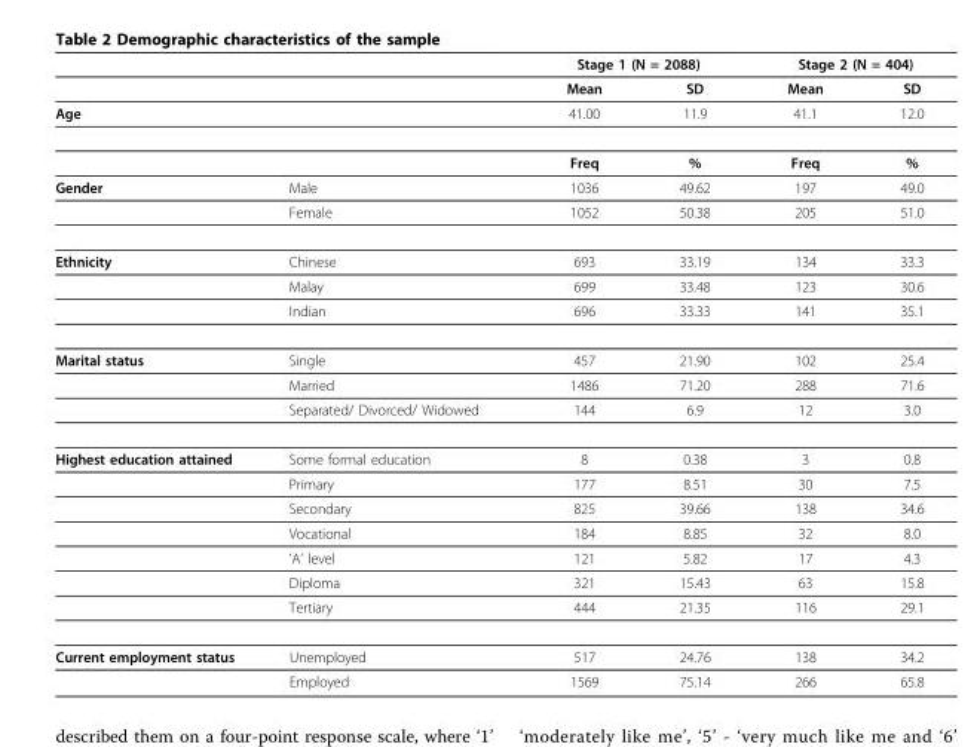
<table><thead><tr><td rowspan="2"></td><td rowspan="2"></td><td colspan="2">Stage 1 (N = 2088)</td><td colspan="2">Stage 2 (N = 404)</td></tr><tr><td>Mean</td><td>SD</td><td>Mean</td><td>SD</td></tr></thead><tbody><tr><td rowspan="2">Age</td><td></td><td>41.00</td><td>11.9</td><td>41.1</td><td>12.0</td></tr><tr><td></td><td>Freq</td><td>%</td><td>Freq</td><td>%</td></tr><tr><td rowspan="2">Gender</td><td>Male</td><td>1036</td><td>49.62</td><td>197</td><td>49.0</td></tr><tr><td>Female</td><td>1052</td><td>50.38</td><td>205</td><td>51.0</td></tr><tr><td rowspan="3">Ethnicity</td><td>Chinese</td><td>693</td><td>33.19</td><td>134</td><td>33.3</td></tr><tr><td>Malay</td><td>699</td><td>33.48</td><td>123</td><td>30.6</td></tr><tr><td>Indian</td><td>696</td><td>33.33</td><td>141</td><td>35.1</td></tr><tr><td rowspan="3">Marital status</td><td>Single</td><td>457</td><td>21.90</td><td>102</td><td>25.4</td></tr><tr><td>Married</td><td>1486</td><td>71.20</td><td>288</td><td>71.6</td></tr><tr><td>Separated/ Divorced/ Widowed</td><td>144</td><td>6.9</td><td>12</td><td>3.0</td></tr><tr><td rowspan="7">Highest education attained</td><td>Some formal education</td><td>8</td><td>0.38</td><td>3</td><td>0.8</td></tr><tr><td>Primary</td><td>177</td><td>8.51</td><td>30</td><td>7.5</td></tr><tr><td>Secondary</td><td>825</td><td>39.66</td><td>138</td><td>34.6</td></tr><tr><td>Vocational</td><td>184</td><td>8.85</td><td>32</td><td>8.0</td></tr><tr><td>’A’ level</td><td>121</td><td>5.82</td><td>17</td><td>4.3</td></tr><tr><td>Diploma</td><td>321</td><td>15.43</td><td>63</td><td>15.8</td></tr><tr><td>Tertiary</td><td>444</td><td>21.35</td><td>116</td><td>29.1</td></tr><tr><td rowspan="2">Current employment status</td><td>Unemployed</td><td>517</td><td>24.76</td><td>138</td><td>34.2</td></tr><tr><td>Employed</td><td>1569</td><td>75.14</td><td>266</td><td>65.8</td></tr></tbody></table>